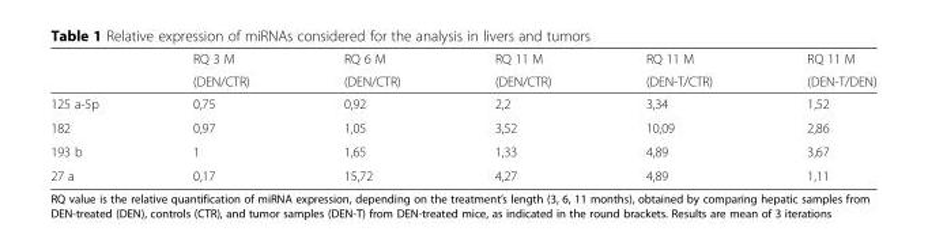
<table><thead><tr><td rowspan="2"></td><td rowspan="2">RQ 3 M (DEN/CTR)</td><td rowspan="2">RQ 6 M (DEN/CTR)</td><td rowspan="2">RQ 11 M (DEN/CTR)</td><td rowspan="2">RQ 11 M (DEN-T/CTR)</td><td rowspan="2">RQ 11 M (DEN-T/DEN)</td></tr><tr></tr></thead><tbody><tr><td>125 a-5p</td><td>0,75</td><td>0,92</td><td>2,2</td><td>3,34</td><td>1,52</td></tr><tr><td>182</td><td>0,97</td><td>1,05</td><td>3,52</td><td>10,09</td><td>2,86</td></tr><tr><td>193 b</td><td>1</td><td>1,65</td><td>1,33</td><td>4,89</td><td>3,67</td></tr><tr><td>27 a</td><td>0,17</td><td>15,72</td><td>4,27</td><td>4,89</td><td>1,11</td></tr></tbody></table>